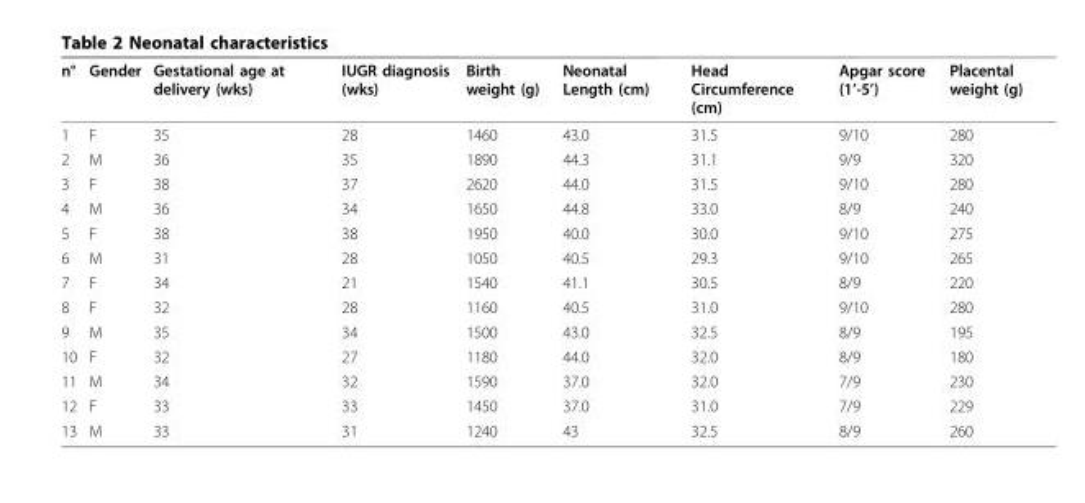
<table><thead><tr><td>n°</td><td>Gender</td><td>Gestational age at delivery (wks)</td><td>IUGR diagnosis (wks)</td><td>Birth weight (g)</td><td>Neonatal Length (cm)</td><td>Head Circumference (cm)</td><td>Apgar score (1’-5’)</td><td>Placental weight (g)</td></tr></thead><tbody><tr><td>1</td><td>F</td><td>35</td><td>28</td><td>1460</td><td>43.0</td><td>31.5</td><td>9/10</td><td>280</td></tr><tr><td>2</td><td>M</td><td>36</td><td>35</td><td>1890</td><td>44.3</td><td>31.1</td><td>9/9</td><td>320</td></tr><tr><td>3</td><td>F</td><td>38</td><td>37</td><td>2620</td><td>44.0</td><td>31.5</td><td>9/10</td><td>280</td></tr><tr><td>4</td><td>M</td><td>36</td><td>34</td><td>1650</td><td>44.8</td><td>33.0</td><td>8/9</td><td>240</td></tr><tr><td>5</td><td>F</td><td>38</td><td>38</td><td>1950</td><td>40.0</td><td>30.0</td><td>9/10</td><td>275</td></tr><tr><td>6</td><td>M</td><td>31</td><td>28</td><td>1050</td><td>40.5</td><td>29.3</td><td>9/10</td><td>265</td></tr><tr><td>7</td><td>F</td><td>34</td><td>21</td><td>1540</td><td>41.1</td><td>30.5</td><td>8/9</td><td>220</td></tr><tr><td>8</td><td>F</td><td>32</td><td>28</td><td>1160</td><td>40.5</td><td>31.0</td><td>9/10</td><td>280</td></tr><tr><td>9</td><td>M</td><td>35</td><td>34</td><td>1500</td><td>43.0</td><td>32.5</td><td>8/9</td><td>195</td></tr><tr><td>10</td><td>F</td><td>32</td><td>27</td><td>1180</td><td>44.0</td><td>32.0</td><td>8/9</td><td>180</td></tr><tr><td>11</td><td>M</td><td>34</td><td>32</td><td>1590</td><td>37.0</td><td>32.0</td><td>7/9</td><td>230</td></tr><tr><td>12</td><td>F</td><td>33</td><td>33</td><td>1450</td><td>37.0</td><td>31.0</td><td>7/9</td><td>229</td></tr><tr><td>13</td><td>M</td><td>33</td><td>31</td><td>1240</td><td>43</td><td>32.5</td><td>8/9</td><td>260</td></tr></tbody></table>